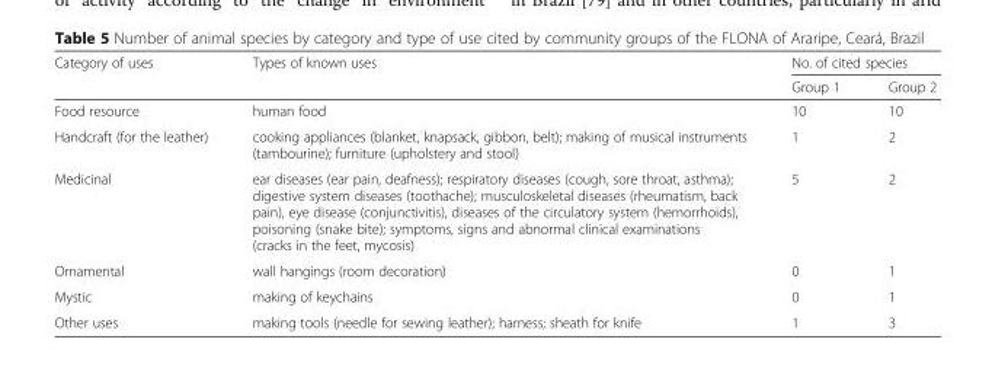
<table><thead><tr><td rowspan="2">Category of uses</td><td rowspan="2">Types of known uses</td><td colspan="2">No. of cited species</td></tr><tr><td>Group 1</td><td>Group 2</td></tr></thead><tbody><tr><td>Food resource</td><td>human food</td><td>10</td><td>10</td></tr><tr><td>Handcraft (for the leather)</td><td>cooking appliances (blanket, knapsack, gibbon, belt); making of musical instruments (tambourine); furniture (upholstery and stool)</td><td>1</td><td>2</td></tr><tr><td>Medicinal</td><td>ear diseases (ear pain, deafness); respiratory diseases (cough, sore throat, asthma); digestive system diseases (toothache); musculoskeletal diseases (rheumatism, back pain), eye disease (conjunctivitis), diseases of the circulatory system (hemorrhoids), poisoning (snake bite); symptoms, signs and abnormal clinical examinations (cracks in the feet, mycosis)</td><td>5</td><td>2</td></tr><tr><td>Ornamental</td><td>wall hangings (room decoration)</td><td>0</td><td>1</td></tr><tr><td>Mystic</td><td>making of keychains</td><td>0</td><td>1</td></tr><tr><td>Other uses</td><td>making tools (needle for sewing leather); harness; sheath for knife</td><td>1</td><td>3</td></tr></tbody></table>